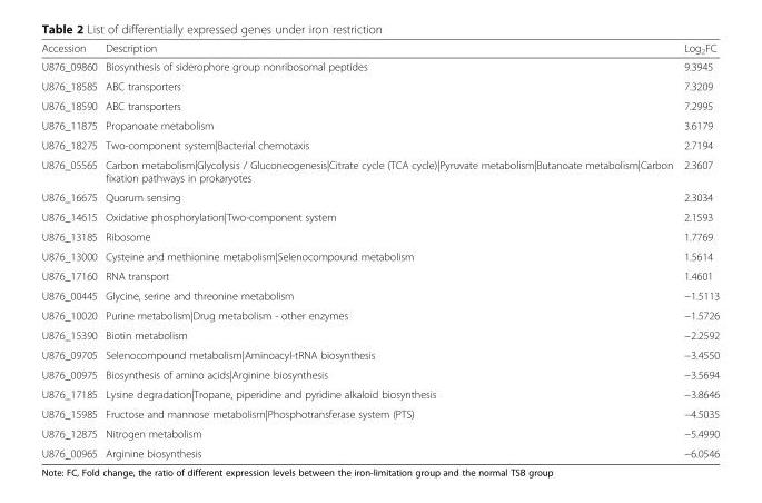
<table><thead><tr><td>Accession</td><td>Description</td><td>Log<sub>2</sub>FC</td></tr></thead><tbody><tr><td>U876_09860</td><td>Biosynthesis of siderophore group nonribosomal peptides</td><td>9.3945</td></tr><tr><td>U876_18585</td><td>ABC transporters</td><td>7.3209</td></tr><tr><td>U876_18590</td><td>ABC transporters</td><td>7.2995</td></tr><tr><td>U876_11875</td><td>Propanoate metabolism</td><td>3.6179</td></tr><tr><td>U876_18275</td><td>Two-component system|Bacterial chemotaxis</td><td>2.7194</td></tr><tr><td>U876_05565</td><td>Carbon metabolism|Glycolysis / Gluconeogenesis|Citrate cycle (TCA cycle)|Pyruvate metabolism|Butanoate metabolism|Carbon fixation pathways in prokaryotes</td><td>2.3607</td></tr><tr><td>U876_16675</td><td>Quorum sensing</td><td>2.3034</td></tr><tr><td>U876_14615</td><td>Oxidative phosphorylation|Two-component system</td><td>2.1593</td></tr><tr><td>U876_13185</td><td>Ribosome</td><td>1.7769</td></tr><tr><td>U876_13000</td><td>Cysteine and methionine metabolism|Selenocompound metabolism</td><td>1.5614</td></tr><tr><td>U876_17160</td><td>RNA transport</td><td>1.4601</td></tr><tr><td>U876_00445</td><td>Glycine, serine and threonine metabolism</td><td>−1.5113</td></tr><tr><td>U876_10020</td><td>Purine metabolism|Drug metabolism - other enzymes</td><td>−1.5726</td></tr><tr><td>U876_15390</td><td>Biotin metabolism</td><td>−2.2592</td></tr><tr><td>U876_09705</td><td>Selenocompound metabolism|Aminoacyl-tRNA biosynthesis</td><td>−3.4550</td></tr><tr><td>U876_00975</td><td>Biosynthesis of amino acids|Arginine biosynthesis</td><td>−3.5694</td></tr><tr><td>U876_17185</td><td>Lysine degradation|Tropane, piperidine and pyridine alkaloid biosynthesis</td><td>−3.8646</td></tr><tr><td>U876_15985</td><td>Fructose and mannose metabolism|Phosphotransferase system (PTS)</td><td>−4.5035</td></tr><tr><td>U876_12875</td><td>Nitrogen metabolism</td><td>−5.4990</td></tr><tr><td>U876_00965</td><td>Arginine biosynthesis</td><td>−6.0546</td></tr></tbody></table>